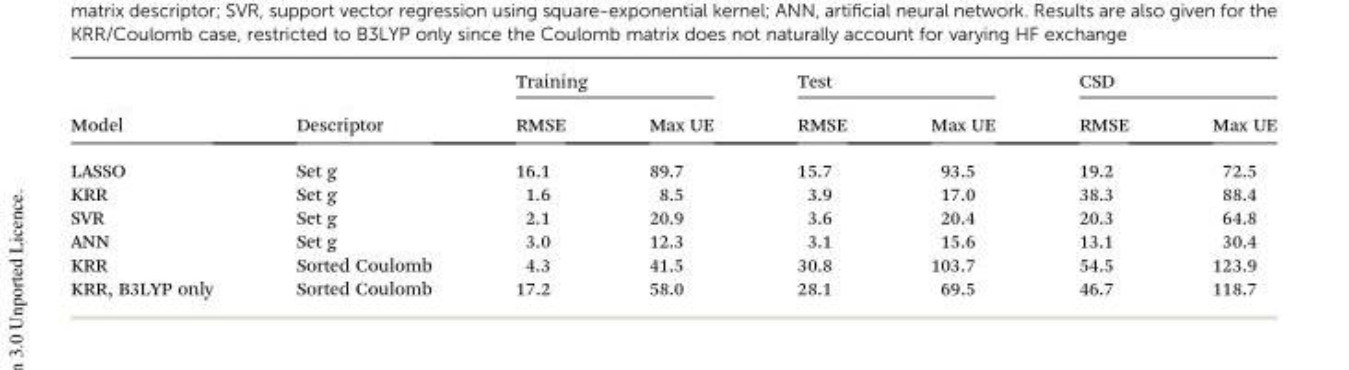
<table><thead><tr><td rowspan="2">Model</td><td rowspan="2">Descriptor</td><td colspan="2">Training</td><td colspan="2">Test</td><td colspan="2">CSD</td></tr><tr><td>RMSE</td><td>Max UE</td><td>RMSE</td><td>Max UE</td><td>RMSE</td><td>Max UE</td></tr></thead><tbody><tr><td>LASSO</td><td>Set g</td><td>16.1</td><td>89.7</td><td>15.7</td><td>93.5</td><td>19.2</td><td>72.5</td></tr><tr><td>KRR</td><td>Set g</td><td>1.6</td><td>8.5</td><td>3.9</td><td>17.0</td><td>38.3</td><td>88.4</td></tr><tr><td>SVR</td><td>Set g</td><td>2.1</td><td>20.9</td><td>3.6</td><td>20.4</td><td>20.3</td><td>64.8</td></tr><tr><td>ANN</td><td>Set g</td><td>3.0</td><td>12.3</td><td>3.1</td><td>15.6</td><td>13.1</td><td>30.4</td></tr><tr><td>KRR</td><td>Sorted Coulomb</td><td>4.3</td><td>41.5</td><td>30.8</td><td>103.7</td><td>54.5</td><td>123.9</td></tr><tr><td>KRR, B3LYP only</td><td>Sorted Coulomb</td><td>17.2</td><td>58.0</td><td>28.1</td><td>69.5</td><td>46.7</td><td>118.7</td></tr></tbody></table>